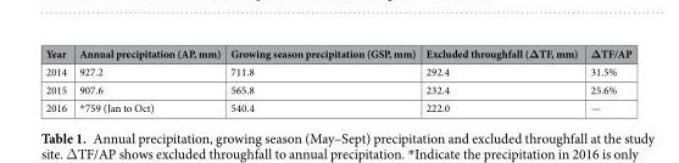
<table><thead><tr><td>Year</td><td>Annual precipitation (AP, mm)</td><td>Growing season precipitation (GSP, mm)</td><td>Excluded throughfall (ΔTF, mm)</td><td>ΔTF/AP</td></tr></thead><tbody><tr><td>2014</td><td>927.2</td><td>711.8</td><td>292.4</td><td>31.5%</td></tr><tr><td>2015</td><td>907.6</td><td>565.8</td><td>232.4</td><td>25.6%</td></tr><tr><td>2016</td><td>*759 (Jan to Oct)</td><td>540.4</td><td>222.0</td><td>—</td></tr></tbody></table>